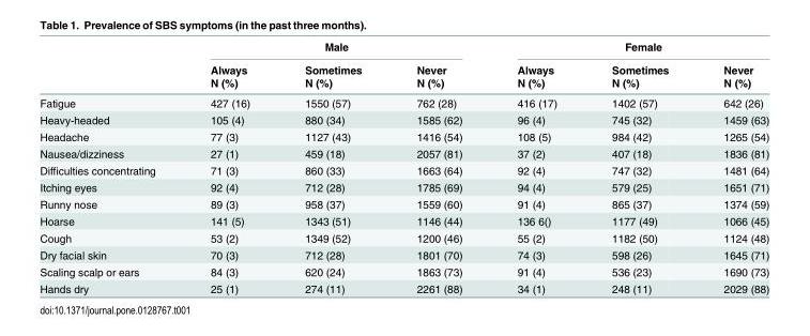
<table><thead><tr><td rowspan="3"></td><td colspan="3">Male</td><td colspan="3">Female</td></tr><tr><td rowspan="2">Always N (%)</td><td rowspan="2">Sometimes N (%)</td><td rowspan="2">Never N (%)</td><td rowspan="2">Always N (%)</td><td rowspan="2">Sometimes N (%)</td><td rowspan="2">Never N (%)</td></tr><tr></tr></thead><tbody><tr><td>Fatigue</td><td>427 (16)</td><td>1550 (57)</td><td>762 (28)</td><td>416 (17)</td><td>1402 (57)</td><td>642 (26)</td></tr><tr><td>Heavy-headed</td><td>105 (4)</td><td>880 (34)</td><td>1585 (62)</td><td>96 (4)</td><td>745 (32)</td><td>1459 (63)</td></tr><tr><td>Headache</td><td>77 (3)</td><td>1127 (43)</td><td>1416 (54)</td><td>108 (5)</td><td>984 (42)</td><td>1265 (54)</td></tr><tr><td>Nausea/dizziness</td><td>27 (1)</td><td>459 (18)</td><td>2057 (81)</td><td>37 (2)</td><td>407 (18)</td><td>1836 (81)</td></tr><tr><td>Difficulties concentrating</td><td>71 (3)</td><td>860 (33)</td><td>1663 (64)</td><td>92 (4)</td><td>747 (32)</td><td>1481 (64)</td></tr><tr><td>Itching eyes</td><td>92 (4)</td><td>712 (28)</td><td>1785 (69)</td><td>94 (4)</td><td>579 (25)</td><td>1651 (71)</td></tr><tr><td>Runny nose</td><td>89 (3)</td><td>958 (37)</td><td>1559 (60)</td><td>91 (4)</td><td>865 (37)</td><td>1374 (59)</td></tr><tr><td>Hoarse</td><td>141 (5)</td><td>1343 (51)</td><td>1146 (44)</td><td>136 6()</td><td>1177 (49)</td><td>1066 (45)</td></tr><tr><td>Cough</td><td>53 (2)</td><td>1349 (52)</td><td>1200 (46)</td><td>55 (2)</td><td>1182 (50)</td><td>1124 (48)</td></tr><tr><td>Dry facial skin</td><td>70 (3)</td><td>712 (28)</td><td>1801 (70)</td><td>74 (3)</td><td>598 (26)</td><td>1645 (71)</td></tr><tr><td>Scaling scalp or ears</td><td>84 (3)</td><td>620 (24)</td><td>1863 (73)</td><td>91 (4)</td><td>536 (23)</td><td>1690 (73)</td></tr><tr><td>Hands dry</td><td>25 (1)</td><td>274 (11)</td><td>2261 (88)</td><td>34 (1)</td><td>248 (11)</td><td>2029 (88)</td></tr></tbody></table>